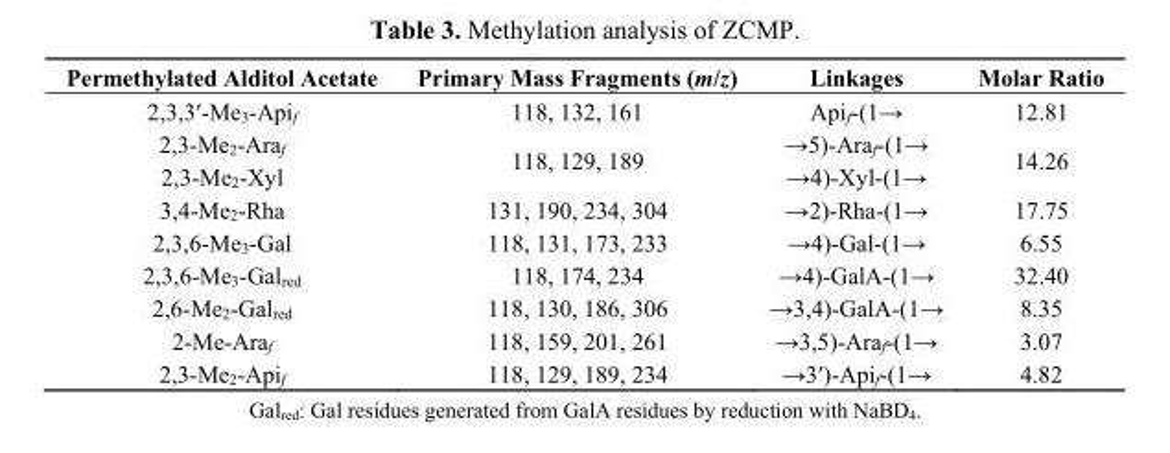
<table><thead><tr><td>Permethylated Alditol Acetate</td><td>Primary Mass Fragments (m/z)</td><td>Linkages</td><td>Molar Ratio</td></tr></thead><tbody><tr><td>2,3,3′-Me<sub>3</sub>-Api<sub>f</sub></td><td>118, 132, 161</td><td>Api<sub>f</sub>-(1→</td><td>12.81</td></tr><tr><td>2,3-Me<sub>2</sub>-Ara<sub>f</sub></td><td rowspan="2">118, 129, 189</td><td>→5)-Ara<sub>f</sub>-(1→</td><td rowspan="2">14.26</td></tr><tr><td>2,3-Me<sub>2</sub>-Xyl</td><td>→4)-Xyl-(1→</td></tr><tr><td>3,4-Me<sub>2</sub>-Rha</td><td>131, 190, 234, 304</td><td>→2)-Rha-(1→</td><td>17.75</td></tr><tr><td>2,3,6-Me<sub>3</sub>-Gal</td><td>118, 131, 173, 233</td><td>→4)-Gal-(1→</td><td>6.55</td></tr><tr><td>2,3,6-Me<sub>3</sub>-Gal<sub>red</sub></td><td>118, 174, 234</td><td>→4)-GalA-(1→</td><td>32.40</td></tr><tr><td>2,6-Me<sub>2</sub>-Gal<sub>red</sub></td><td>118, 130, 186, 306</td><td>→3,4)-GalA-(1→</td><td>8.35</td></tr><tr><td>2-Me-Ara<sub>f</sub></td><td>118, 159, 201, 261</td><td>→3,5)-Ara<sub>f</sub>-(1→</td><td>3.07</td></tr><tr><td>2,3-Me<sub>2</sub>-Api<sub>f</sub></td><td>118, 129, 189, 234</td><td>→3′)-Api<sub>f</sub>-(1→</td><td>4.82</td></tr></tbody></table>